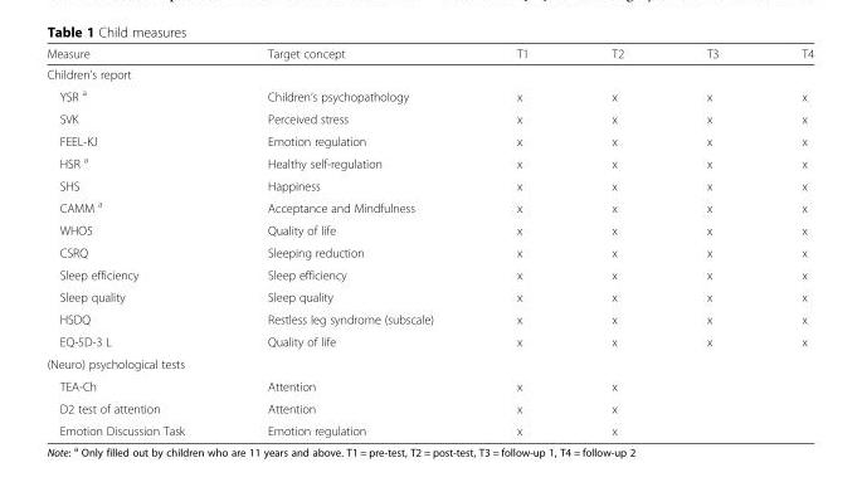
<table><thead><tr><td>Measure</td><td>Target concept</td><td>T1</td><td>T2</td><td>T3</td><td>T4</td></tr></thead><tbody><tr><td colspan="6">Children’s report</td></tr><tr><td>YSR <sup>a</sup></td><td>Children’s psychopathology</td><td>x</td><td>x</td><td>x</td><td>x</td></tr><tr><td>SVK</td><td>Perceived stress</td><td>x</td><td>x</td><td>x</td><td>x</td></tr><tr><td>FEEL-KJ</td><td>Emotion regulation</td><td>x</td><td>x</td><td>x</td><td>x</td></tr><tr><td>HSR <sup>a</sup></td><td>Healthy self-regulation</td><td>x</td><td>x</td><td>x</td><td>x</td></tr><tr><td>SHS</td><td>Happiness</td><td>x</td><td>x</td><td>x</td><td>x</td></tr><tr><td>CAMM <sup>a</sup></td><td>Acceptance and Mindfulness</td><td>x</td><td>x</td><td>x</td><td>x</td></tr><tr><td>WHO5</td><td>Quality of life</td><td>x</td><td>x</td><td>x</td><td>x</td></tr><tr><td>CSRQ</td><td>Sleeping reduction</td><td>x</td><td>x</td><td>x</td><td>x</td></tr><tr><td>Sleep efficiency</td><td>Sleep efficiency</td><td>x</td><td>x</td><td>x</td><td>x</td></tr><tr><td>Sleep quality</td><td>Sleep quality</td><td>x</td><td>x</td><td>x</td><td>x</td></tr><tr><td>HSDQ</td><td>Restless leg syndrome (subscale)</td><td>x</td><td>x</td><td>x</td><td>x</td></tr><tr><td>EQ-5D-3 L</td><td>Quality of life</td><td>x</td><td>x</td><td>x</td><td>x</td></tr><tr><td colspan="6">(Neuro) psychological tests</td></tr><tr><td>TEA-Ch</td><td>Attention</td><td>x</td><td>x</td><td></td><td></td></tr><tr><td>D2 test of attention</td><td>Attention</td><td>x</td><td>x</td><td></td><td></td></tr><tr><td>Emotion Discussion Task</td><td>Emotion regulation</td><td>x</td><td>x</td><td></td><td></td></tr></tbody></table>